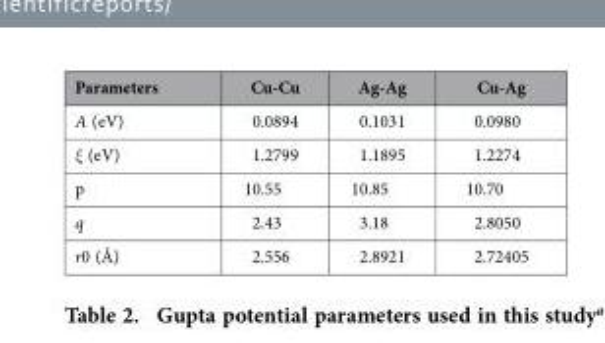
<table><thead><tr><td>Parameters</td><td>Cu-Cu</td><td>Ag-Ag</td><td>Cu-Ag</td></tr></thead><tbody><tr><td>A (eV)</td><td>0.0894</td><td>0.1031</td><td>0.0980</td></tr><tr><td>ξ (eV)</td><td>1.2799</td><td>1.1895</td><td>1.2274</td></tr><tr><td>p</td><td>10.55</td><td>10.85</td><td>10.70</td></tr><tr><td>q</td><td>2.43</td><td>3.18</td><td>2.8050</td></tr><tr><td>r0 (Å)</td><td>2.556</td><td>2.8921</td><td>2.72405</td></tr></tbody></table>